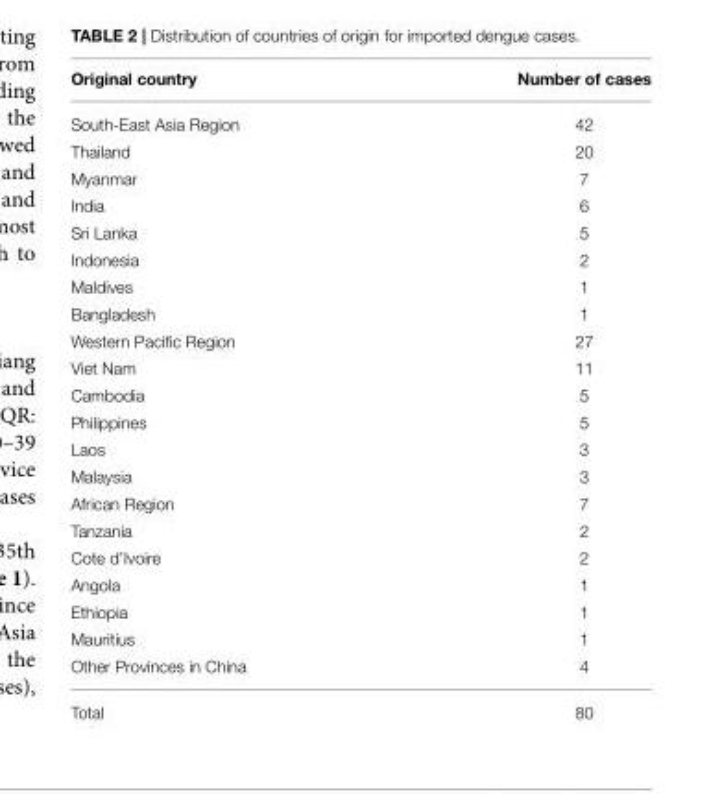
<table><thead><tr><td>Original country</td><td>Number of cases</td></tr></thead><tbody><tr><td>South-East Asia Region</td><td>42</td></tr><tr><td>Thailand</td><td>20</td></tr><tr><td>Myanmar</td><td>7</td></tr><tr><td>India</td><td>6</td></tr><tr><td>Sri Lanka</td><td>5</td></tr><tr><td>Indonesia</td><td>2</td></tr><tr><td>Maldives</td><td>1</td></tr><tr><td>Bangladesh</td><td>1</td></tr><tr><td>Western Pacific Region</td><td>27</td></tr><tr><td>Viet Nam</td><td>11</td></tr><tr><td>Cambodia</td><td>5</td></tr><tr><td>Philippines</td><td>5</td></tr><tr><td>Laos</td><td>3</td></tr><tr><td>Malaysia</td><td>3</td></tr><tr><td>African Region</td><td>7</td></tr><tr><td>Tanzania</td><td>2</td></tr><tr><td>Cote d’Ivoire</td><td>2</td></tr><tr><td>Angola</td><td>1</td></tr><tr><td>Ethiopia</td><td>1</td></tr><tr><td>Mauritius</td><td>1</td></tr><tr><td>Other Provinces in China</td><td>4</td></tr><tr><td>Total</td><td>80</td></tr></tbody></table>